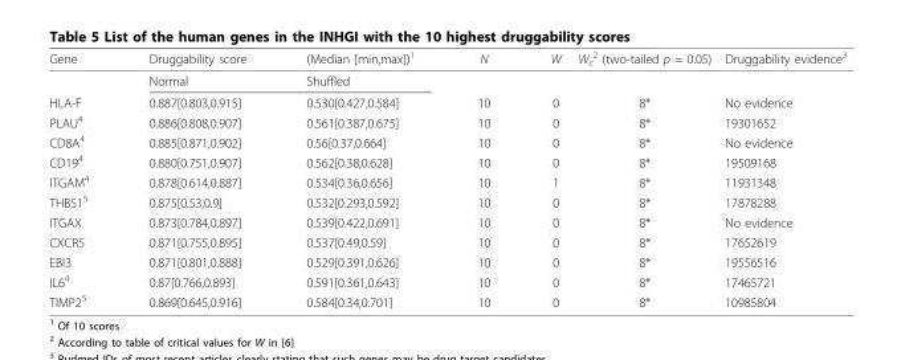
<table><thead><tr><td>Gene</td><td>Druggability score</td><td>(Median [min,max])<sup>1</sup></td><td>N</td><td>W</td><td>W<sub>c</sub> <sup>2</sup> (two-tailed p = 0.05)</td><td>Druggability evidence<sup>3</sup></td></tr></thead><tbody><tr><td></td><td>Normal</td><td>Shuffled</td><td></td><td colspan="3"></td></tr><tr><td>HLA-F</td><td>0.887[0.803,0.915]</td><td>0.530[0.427,0.584]</td><td>10</td><td>0</td><td>8*</td><td>No evidence</td></tr><tr><td>PLAU<sup>4</sup></td><td>0.886[0.808,0.907]</td><td>0.561[0.387,0.675]</td><td>10</td><td>0</td><td>8*</td><td>19301652</td></tr><tr><td>CD8A<sup>4</sup></td><td>0.885[0.871,0.902]</td><td>0.56[0.37,0.664]</td><td>10</td><td>0</td><td>8*</td><td>No evidence</td></tr><tr><td>CD19<sup>4</sup></td><td>0.880[0.751,0.907]</td><td>0.562[0.38,0.628]</td><td>10</td><td>0</td><td>8*</td><td>19509168</td></tr><tr><td>ITGAM<sup>4</sup></td><td>0.878[0.614,0.887]</td><td>0.534[0.36,0.656]</td><td>10</td><td>1</td><td>8*</td><td>11931348</td></tr><tr><td>THBS1<sup>5</sup></td><td>0.875[0.53,0.9]</td><td>0.532[0.293,0.592]</td><td>10</td><td>0</td><td>8*</td><td>17878288</td></tr><tr><td>ITGAX</td><td>0.873[0.784,0.897]</td><td>0.539[0.422,0.691]</td><td>10</td><td>0</td><td>8*</td><td>No evidence</td></tr><tr><td>CXCR5</td><td>0.871[0.755,0.895]</td><td>0.537[0.49,0.59]</td><td>10</td><td>0</td><td>8*</td><td>17652619</td></tr><tr><td>EBI3</td><td>0.871[0.801,0.888]</td><td>0.529[0.391,0.626]</td><td>10</td><td>0</td><td>8*</td><td>19556516</td></tr><tr><td>IL6<sup>4</sup></td><td>0.87[0.766,0.893]</td><td>0.591[0.361,0.643]</td><td>10</td><td>0</td><td>8*</td><td>17465721</td></tr><tr><td>TIMP2<sup>5</sup></td><td>0.869[0.645,0.916]</td><td>0.584[0.34,0.701]</td><td>10</td><td>0</td><td>8*</td><td>10985804</td></tr></tbody></table>